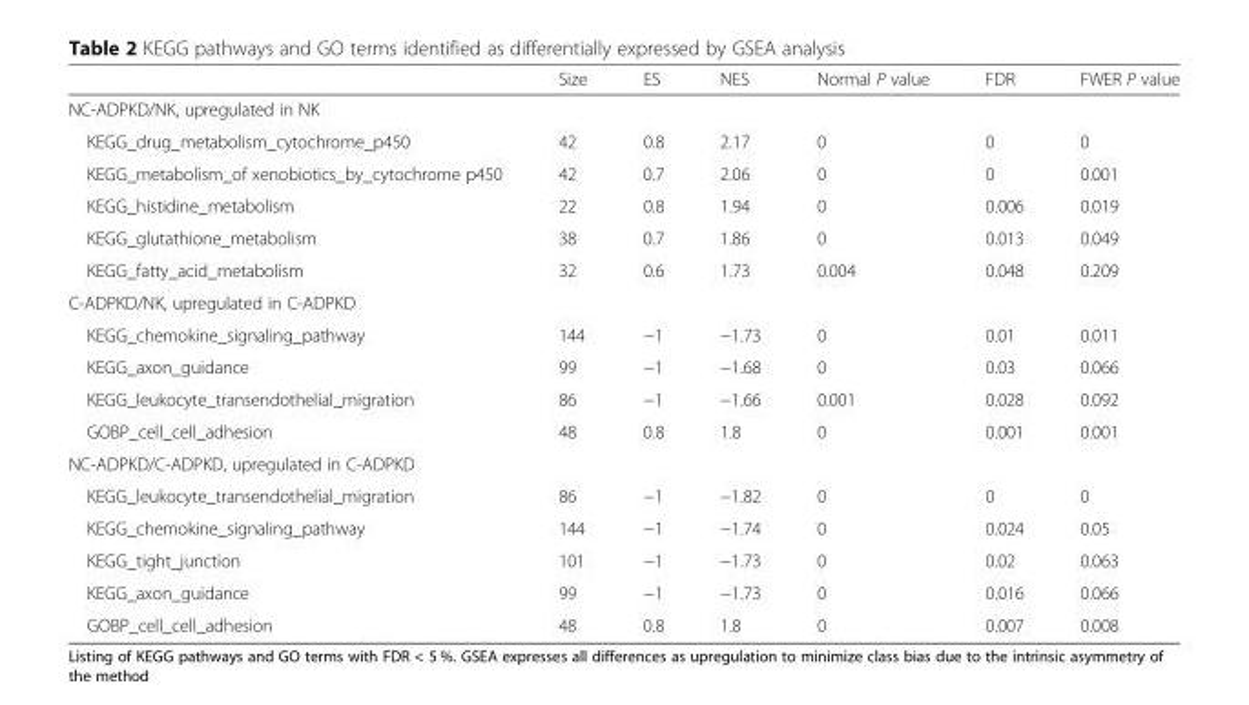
<table><thead><tr><td></td><td>Size</td><td>ES</td><td>NES</td><td>Normal P value</td><td>FDR</td><td>FWER P value</td></tr></thead><tbody><tr><td colspan="7">NC-ADPKD/NK, upregulated in NK</td></tr><tr><td>KEGG_drug_metabolism_cytochrome_p450</td><td>42</td><td>0.8</td><td>2.17</td><td>0</td><td>0</td><td>0</td></tr><tr><td>KEGG_metabolism_of xenobiotics_by_cytochrome p450</td><td>42</td><td>0.7</td><td>2.06</td><td>0</td><td>0</td><td>0.001</td></tr><tr><td>KEGG_histidine_metabolism</td><td>22</td><td>0.8</td><td>1.94</td><td>0</td><td>0.006</td><td>0.019</td></tr><tr><td>KEGG_glutathione_metabolism</td><td>38</td><td>0.7</td><td>1.86</td><td>0</td><td>0.013</td><td>0.049</td></tr><tr><td>KEGG_fatty_acid_metabolism</td><td>32</td><td>0.6</td><td>1.73</td><td>0.004</td><td>0.048</td><td>0.209</td></tr><tr><td colspan="7">C-ADPKD/NK, upregulated in C-ADPKD</td></tr><tr><td>KEGG_chemokine_signaling_pathway</td><td>144</td><td>−1</td><td>−1.73</td><td>0</td><td>0.01</td><td>0.011</td></tr><tr><td>KEGG_axon_guidance</td><td>99</td><td>−1</td><td>−1.68</td><td>0</td><td>0.03</td><td>0.066</td></tr><tr><td>KEGG_leukocyte_transendothelial_migration</td><td>86</td><td>−1</td><td>−1.66</td><td>0.001</td><td>0.028</td><td>0.092</td></tr><tr><td>GOBP_cell_cell_adhesion</td><td>48</td><td>0.8</td><td>1.8</td><td>0</td><td>0.001</td><td>0.001</td></tr><tr><td colspan="7">NC-ADPKD/C-ADPKD, upregulated in C-ADPKD</td></tr><tr><td>KEGG_leukocyte_transendothelial_migration</td><td>86</td><td>−1</td><td>−1.82</td><td>0</td><td>0</td><td>0</td></tr><tr><td>KEGG_chemokine_signaling_pathway</td><td>144</td><td>−1</td><td>−1.74</td><td>0</td><td>0.024</td><td>0.05</td></tr><tr><td>KEGG_tight_junction</td><td>101</td><td>−1</td><td>−1.73</td><td>0</td><td>0.02</td><td>0.063</td></tr><tr><td>KEGG_axon_guidance</td><td>99</td><td>−1</td><td>−1.73</td><td>0</td><td>0.016</td><td>0.066</td></tr><tr><td>GOBP_cell_cell_adhesion</td><td>48</td><td>0.8</td><td>1.8</td><td>0</td><td>0.007</td><td>0.008</td></tr></tbody></table>